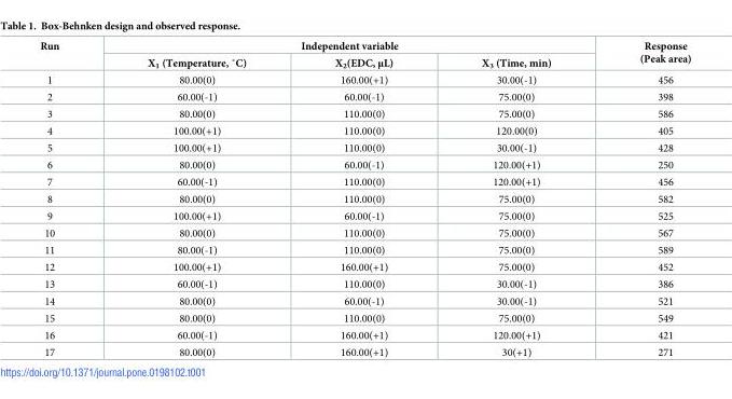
<table><thead><tr><td rowspan="2">Run</td><td colspan="3">Independent variable</td><td rowspan="2">Response (Peak area)</td></tr><tr><td>X1 (Temperature, ˚C)</td><td>X<sub>2</sub>(EDC, μL)</td><td>X<sub>3</sub> (Time, min)</td></tr></thead><tbody><tr><td>1</td><td>80.00(0)</td><td>160.00(+1)</td><td>30.00(-1)</td><td>456</td></tr><tr><td>2</td><td>60.00(-1)</td><td>60.00(-1)</td><td>75.00(0)</td><td>398</td></tr><tr><td>3</td><td>80.00(0)</td><td>110.00(0)</td><td>75.00(0)</td><td>586</td></tr><tr><td>4</td><td>100.00(+1)</td><td>110.00(0)</td><td>120.00(0)</td><td>405</td></tr><tr><td>5</td><td>100.00(+1)</td><td>110.00(0)</td><td>30.00(-1)</td><td>428</td></tr><tr><td>6</td><td>80.00(0)</td><td>60.00(-1)</td><td>120.00(+1)</td><td>250</td></tr><tr><td>7</td><td>60.00(-1)</td><td>110.00(0)</td><td>120.00(+1)</td><td>456</td></tr><tr><td>8</td><td>80.00(0)</td><td>110.00(0)</td><td>75.00(0)</td><td>582</td></tr><tr><td>9</td><td>100.00(+1)</td><td>60.00(-1)</td><td>75.00(0)</td><td>525</td></tr><tr><td>10</td><td>80.00(0)</td><td>110.00(0)</td><td>75.00(0)</td><td>567</td></tr><tr><td>11</td><td>80.00(-1)</td><td>110.00(0)</td><td>75.00(0)</td><td>589</td></tr><tr><td>12</td><td>100.00(+1)</td><td>160.00(+1)</td><td>75.00(0)</td><td>452</td></tr><tr><td>13</td><td>60.00(-1)</td><td>110.00(0)</td><td>30.00(-1)</td><td>386</td></tr><tr><td>14</td><td>80.00(0)</td><td>60.00(-1)</td><td>30.00(-1)</td><td>521</td></tr><tr><td>15</td><td>80.00(0)</td><td>110.00(0)</td><td>75.00(0)</td><td>549</td></tr><tr><td>16</td><td>60.00(-1)</td><td>160.00(+1)</td><td>120.00(+1)</td><td>421</td></tr><tr><td>17</td><td>80.00(0)</td><td>160.00(+1)</td><td>30(+1)</td><td>271</td></tr></tbody></table>